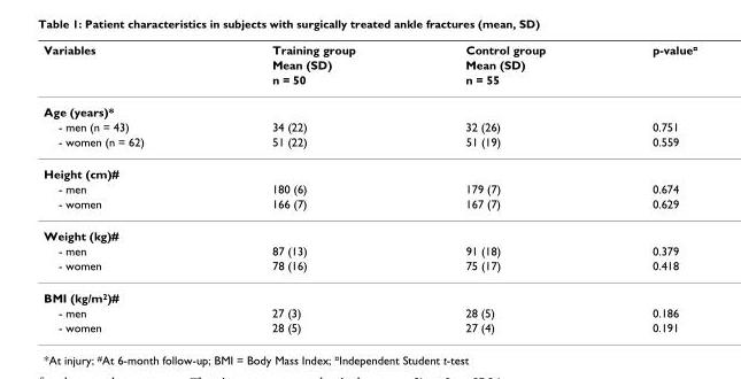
<table><thead><tr><td rowspan="3">Variables</td><td rowspan="3">Training group Mean (SD) n = 50</td><td rowspan="3">Control group Mean (SD) n = 55</td><td rowspan="3">p-value<sup>¤</sup></td></tr><tr></tr><tr></tr></thead><tbody><tr><td colspan="4">Age (years)*</td></tr><tr><td>- men (n = 43)</td><td>34 (22)</td><td>32 (26)</td><td>0.751</td></tr><tr><td>- women (n = 62)</td><td>51 (22)</td><td>51 (19)</td><td>0.559</td></tr><tr><td colspan="4">Height (cm)#</td></tr><tr><td>- men</td><td>180 (6)</td><td>179 (7)</td><td>0.674</td></tr><tr><td>- women</td><td>166 (7)</td><td>167 (7)</td><td>0.629</td></tr><tr><td colspan="4">Weight (kg)#</td></tr><tr><td>- men</td><td>87 (13)</td><td>91 (18)</td><td>0.379</td></tr><tr><td>- women</td><td>78 (16)</td><td>75 (17)</td><td>0.418</td></tr><tr><td colspan="4">BMI (kg/m<sup>2</sup>)#</td></tr><tr><td>- men</td><td>27 (3)</td><td>28 (5)</td><td>0.186</td></tr><tr><td>- women</td><td>28 (5)</td><td>27 (4)</td><td>0.191</td></tr></tbody></table>